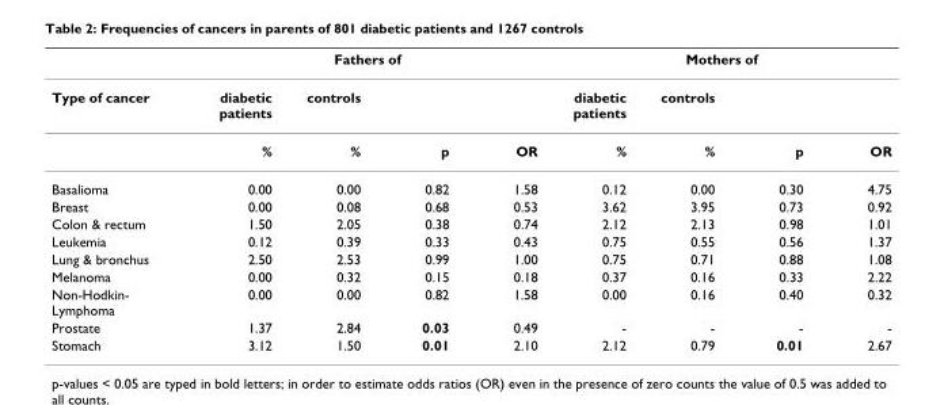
<table><thead><tr><td rowspan="2">Type of cancer</td><td colspan="4">Fathers of</td><td colspan="4">Mothers of</td></tr><tr><td>diabetic patients</td><td>controls</td><td></td><td></td><td>diabetic patients</td><td>controls</td><td></td><td></td></tr></thead><tbody><tr><td></td><td>%</td><td>%</td><td>p</td><td>OR</td><td>%</td><td>%</td><td>p</td><td>OR</td></tr><tr><td>Basalioma</td><td>0.00</td><td>0.00</td><td>0.82</td><td>1.58</td><td>0.12</td><td>0.00</td><td>0.30</td><td>4.75</td></tr><tr><td>Breast</td><td>0.00</td><td>0.08</td><td>0.68</td><td>0.53</td><td>3.62</td><td>3.95</td><td>0.73</td><td>0.92</td></tr><tr><td>Colon &amp; rectum</td><td>1.50</td><td>2.05</td><td>0.38</td><td>0.74</td><td>2.12</td><td>2.13</td><td>0.98</td><td>1.01</td></tr><tr><td>Leukemia</td><td>0.12</td><td>0.39</td><td>0.33</td><td>0.43</td><td>0.75</td><td>0.55</td><td>0.56</td><td>1.37</td></tr><tr><td>Lung &amp; bronchus</td><td>2.50</td><td>2.53</td><td>0.99</td><td>1.00</td><td>0.75</td><td>0.71</td><td>0.88</td><td>1.08</td></tr><tr><td>Melanoma</td><td>0.00</td><td>0.32</td><td>0.15</td><td>0.18</td><td>0.37</td><td>0.16</td><td>0.33</td><td>2.22</td></tr><tr><td>Non-Hodkin- Lymphoma</td><td>0.00</td><td>0.00</td><td>0.82</td><td>1.58</td><td>0.00</td><td>0.16</td><td>0.40</td><td>0.32</td></tr><tr><td>Prostate</td><td>1.37</td><td>2.84</td><td>0.03</td><td>0.49</td><td>-</td><td>-</td><td>-</td><td>-</td></tr><tr><td>Stomach</td><td>3.12</td><td>1.50</td><td>0.01</td><td>2.10</td><td>2.12</td><td>0.79</td><td>0.01</td><td>2.67</td></tr></tbody></table>